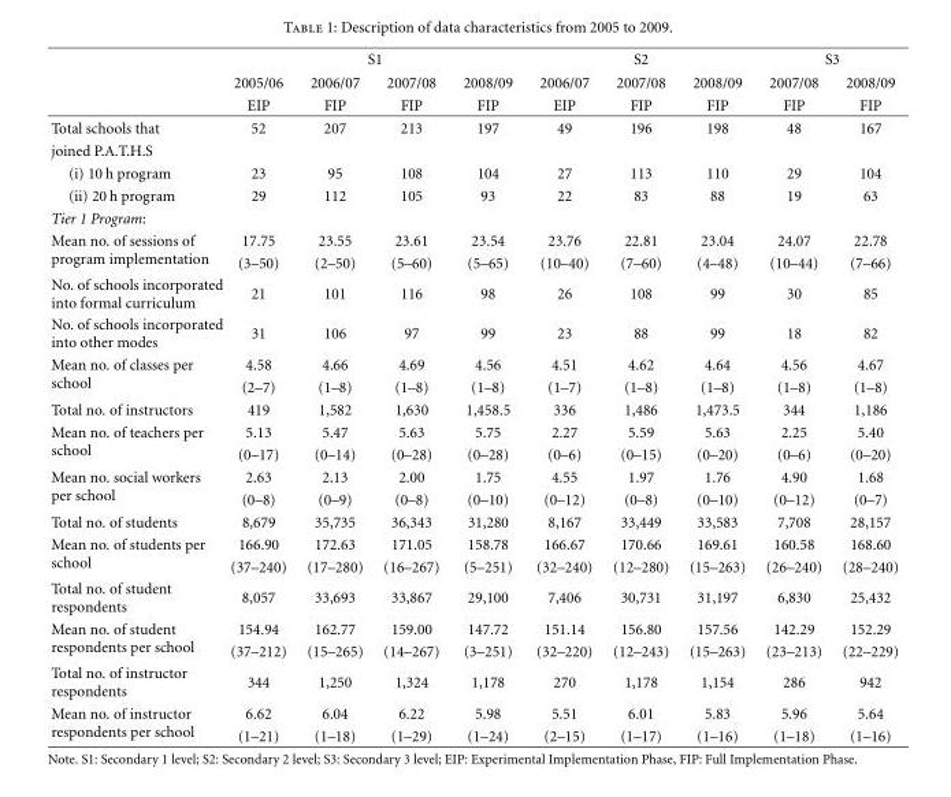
<table><thead><tr><td rowspan="3"></td><td colspan="4">S1</td><td colspan="3">S2</td><td colspan="2">S3</td></tr><tr><td rowspan="2">2005/06 EIP</td><td rowspan="2">2006/07 FIP</td><td rowspan="2">2007/08 FIP</td><td rowspan="2">2008/09 FIP</td><td rowspan="2">2006/07 EIP</td><td rowspan="2">2007/08 FIP</td><td rowspan="2">2008/09 FIP</td><td rowspan="2">2007/08 FIP</td><td rowspan="2">2008/09 FIP</td></tr><tr></tr></thead><tbody><tr><td>Total schools that</td><td>52</td><td>207</td><td>213</td><td>197</td><td>49</td><td>196</td><td>198</td><td>48</td><td>167</td></tr><tr><td colspan="10">joined P.A.T.H.S</td></tr><tr><td>(i) 10 h program</td><td>23</td><td>95</td><td>108</td><td>104</td><td>27</td><td>113</td><td>110</td><td>29</td><td>104</td></tr><tr><td>(ii) 20 h program</td><td>29</td><td>112</td><td>105</td><td>93</td><td>22</td><td>83</td><td>88</td><td>19</td><td>63</td></tr><tr><td colspan="10">Tier 1 Program:</td></tr><tr><td rowspan="2">Mean no. of sessions of program implementation</td><td>17.75</td><td>23.55</td><td>23.61</td><td>23.54</td><td>23.76</td><td>22.81</td><td>23.04</td><td>24.07</td><td>22.78</td></tr><tr><td>(3–50)</td><td>(2–50)</td><td>(5–60)</td><td>(5–65)</td><td>(10–40)</td><td>(7–60)</td><td>(4–48)</td><td>(10–44)</td><td>(7–66)</td></tr><tr><td>No. of schools incorporated into formal curriculum</td><td>21</td><td>101</td><td>116</td><td>98</td><td>26</td><td>108</td><td>99</td><td>30</td><td>85</td></tr><tr><td>No. of schools incorporated into other modes</td><td>31</td><td>106</td><td>97</td><td>99</td><td>23</td><td>88</td><td>99</td><td>18</td><td>82</td></tr><tr><td rowspan="2">Mean no. of classes per school</td><td>4.58</td><td>4.66</td><td>4.69</td><td>4.56</td><td>4.51</td><td>4.62</td><td>4.64</td><td>4.56</td><td>4.67</td></tr><tr><td>(2–7)</td><td>(1–8)</td><td>(1–8)</td><td>(1–8)</td><td>(1–7)</td><td>(1–8)</td><td>(1–8)</td><td>(1–8)</td><td>(1–8)</td></tr><tr><td>Total no. of instructors</td><td>419</td><td>1,582</td><td>1,630</td><td>1,458.5</td><td>336</td><td>1,486</td><td>1,473.5</td><td>344</td><td>1,186</td></tr><tr><td rowspan="2">Mean no. of teachers per school</td><td>5.13</td><td>5.47</td><td>5.63</td><td>5.75</td><td>2.27</td><td>5.59</td><td>5.63</td><td>2.25</td><td>5.40</td></tr><tr><td>(0–17)</td><td>(0–14)</td><td>(0–28)</td><td>(0–28)</td><td>(0–6)</td><td>(0–15)</td><td>(0–20)</td><td>(0–6)</td><td>(0–20)</td></tr><tr><td rowspan="2">Mean no. social workers per school</td><td>2.63</td><td>2.13</td><td>2.00</td><td>1.75</td><td>4.55</td><td>1.97</td><td>1.76</td><td>4.90</td><td>1.68</td></tr><tr><td>(0–8)</td><td>(0–9)</td><td>(0–8)</td><td>(0–10)</td><td>(0–12)</td><td>(0–8)</td><td>(0–10)</td><td>(0–12)</td><td>(0–7)</td></tr><tr><td>Total no. of students</td><td>8,679</td><td>35,735</td><td>36,343</td><td>31,280</td><td>8,167</td><td>33,449</td><td>33,583</td><td>7,708</td><td>28,157</td></tr><tr><td rowspan="2">Mean no. of students per school</td><td>166.90</td><td>172.63</td><td>171.05</td><td>158.78</td><td>166.67</td><td>170.66</td><td>169.61</td><td>160.58</td><td>168.60</td></tr><tr><td>(37–240)</td><td>(17–280)</td><td>(16–267)</td><td>(5–251)</td><td>(32–240)</td><td>(12–280)</td><td>(15–263)</td><td>(26–240)</td><td>(28–240)</td></tr><tr><td>Total no. of student respondents</td><td>8,057</td><td>33,693</td><td>33,867</td><td>29,100</td><td>7,406</td><td>30,731</td><td>31,197</td><td>6,830</td><td>25,432</td></tr><tr><td rowspan="2">Mean no. of student respondents per school</td><td>154.94</td><td>162.77</td><td>159.00</td><td>147.72</td><td>151.14</td><td>156.80</td><td>157.56</td><td>142.29</td><td>152.29</td></tr><tr><td>(37–212)</td><td>(15–265)</td><td>(14–267)</td><td>(3–251)</td><td>(32–220)</td><td>(12–243)</td><td>(15–263)</td><td>(23–213)</td><td>(22–229)</td></tr><tr><td>Total no. of instructor respondents</td><td>344</td><td>1,250</td><td>1,324</td><td>1,178</td><td>270</td><td>1,178</td><td>1,154</td><td>286</td><td>942</td></tr><tr><td rowspan="2">Mean no. of instructor respondents per school</td><td>6.62</td><td>6.04</td><td>6.22</td><td>5.98</td><td>5.51</td><td>6.01</td><td>5.83</td><td>5.96</td><td>5.64</td></tr><tr><td>(1–21)</td><td>(1–18)</td><td>(1–29)</td><td>(1–24)</td><td>(2–15)</td><td>(1–17)</td><td>(1–16)</td><td>(1–18)</td><td>(1–16)</td></tr></tbody></table>